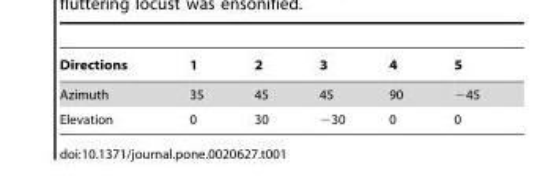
<table><thead><tr><td>Directions</td><td>1</td><td>2</td><td>3</td><td>4</td><td>5</td></tr></thead><tbody><tr><td>Azimuth</td><td>35</td><td>45</td><td>45</td><td>90</td><td>−45</td></tr><tr><td>Elevation</td><td>0</td><td>30</td><td>−30</td><td>0</td><td>0</td></tr></tbody></table>